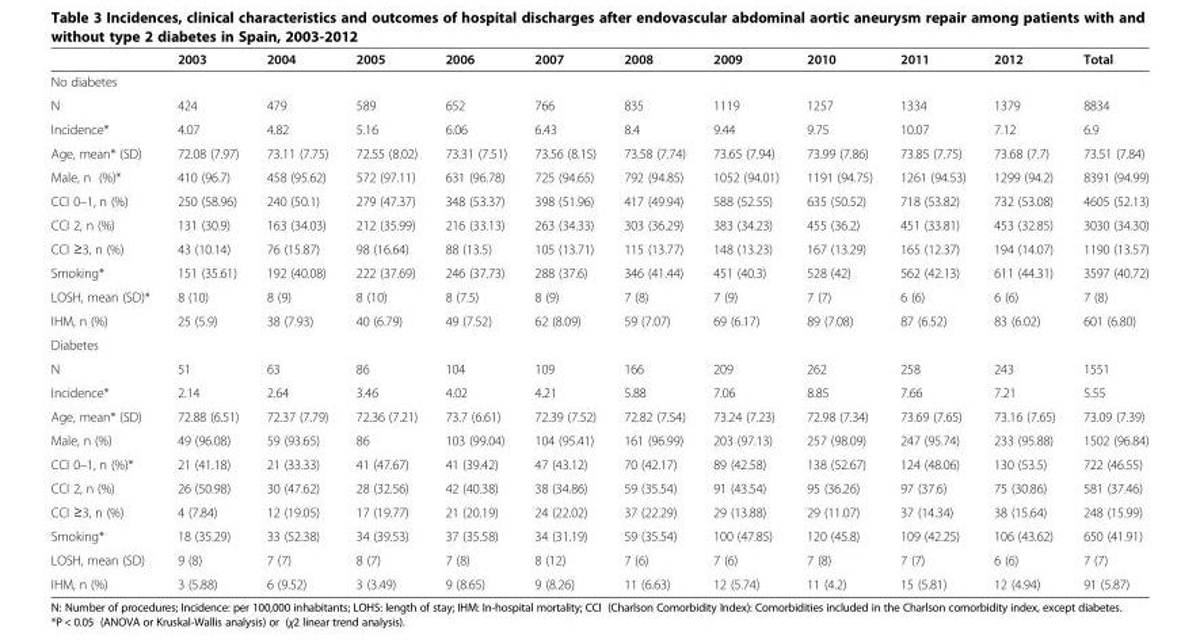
<table><thead><tr><td></td><td>2003</td><td>2004</td><td>2005</td><td>2006</td><td>2007</td><td>2008</td><td>2009</td><td>2010</td><td>2011</td><td>2012</td><td>Total</td></tr></thead><tbody><tr><td colspan="12">No diabetes</td></tr><tr><td>N</td><td>424</td><td>479</td><td>589</td><td>652</td><td>766</td><td>835</td><td>1119</td><td>1257</td><td>1334</td><td>1379</td><td>8834</td></tr><tr><td>Incidence*</td><td>4.07</td><td>4.82</td><td>5.16</td><td>6.06</td><td>6.43</td><td>8.4</td><td>9.44</td><td>9.75</td><td>10.07</td><td>7.12</td><td>6.9</td></tr><tr><td>Age, mean* (SD)</td><td>72.08 (7.97)</td><td>73.11 (7.75)</td><td>72.55 (8.02)</td><td>73.31 (7.51)</td><td>73.56 (8.15)</td><td>73.58 (7.74)</td><td>73.65 (7.94)</td><td>73.99 (7.86)</td><td>73.85 (7.75)</td><td>73.68 (7.7)</td><td>73.51 (7.84)</td></tr><tr><td>Male, n (%)*</td><td>410 (96.7)</td><td>458 (95.62)</td><td>572 (97.11)</td><td>631 (96.78)</td><td>725 (94.65)</td><td>792 (94.85)</td><td>1052 (94.01)</td><td>1191 (94.75)</td><td>1261 (94.53)</td><td>1299 (94.2)</td><td>8391 (94.99)</td></tr><tr><td>CCI 0–1, n (%)</td><td>250 (58.96)</td><td>240 (50.1)</td><td>279 (47.37)</td><td>348 (53.37)</td><td>398 (51.96)</td><td>417 (49.94)</td><td>588 (52.55)</td><td>635 (50.52)</td><td>718 (53.82)</td><td>732 (53.08)</td><td>4605 (52.13)</td></tr><tr><td>CCI 2, n (%)</td><td>131 (30.9)</td><td>163 (34.03)</td><td>212 (35.99)</td><td>216 (33.13)</td><td>263 (34.33)</td><td>303 (36.29)</td><td>383 (34.23)</td><td>455 (36.2)</td><td>451 (33.81)</td><td>453 (32.85)</td><td>3030 (34.30)</td></tr><tr><td>CCI ≥3, n (%)</td><td>43 (10.14)</td><td>76 (15.87)</td><td>98 (16.64)</td><td>88 (13.5)</td><td>105 (13.71)</td><td>115 (13.77)</td><td>148 (13.23)</td><td>167 (13.29)</td><td>165 (12.37)</td><td>194 (14.07)</td><td>1190 (13.57)</td></tr><tr><td>Smoking*</td><td>151 (35.61)</td><td>192 (40.08)</td><td>222 (37.69)</td><td>246 (37.73)</td><td>288 (37.6)</td><td>346 (41.44)</td><td>451 (40.3)</td><td>528 (42)</td><td>562 (42.13)</td><td>611 (44.31)</td><td>3597 (40.72)</td></tr><tr><td>LOSH, mean (SD)*</td><td>8 (10)</td><td>8 (9)</td><td>8 (10)</td><td>8 (7.5)</td><td>8 (9)</td><td>7 (8)</td><td>7 (9)</td><td>7 (7)</td><td>6 (6)</td><td>6 (6)</td><td>7 (8)</td></tr><tr><td>IHM, n (%)</td><td>25 (5.9)</td><td>38 (7.93)</td><td>40 (6.79)</td><td>49 (7.52)</td><td>62 (8.09)</td><td>59 (7.07)</td><td>69 (6.17)</td><td>89 (7.08)</td><td>87 (6.52)</td><td>83 (6.02)</td><td>601 (6.80)</td></tr><tr><td colspan="12">Diabetes</td></tr><tr><td>N</td><td>51</td><td>63</td><td>86</td><td>104</td><td>109</td><td>166</td><td>209</td><td>262</td><td>258</td><td>243</td><td>1551</td></tr><tr><td>Incidence*</td><td>2.14</td><td>2.64</td><td>3.46</td><td>4.02</td><td>4.21</td><td>5.88</td><td>7.06</td><td>8.85</td><td>7.66</td><td>7.21</td><td>5.55</td></tr><tr><td>Age, mean* (SD)</td><td>72.88 (6.51)</td><td>72.37 (7.79)</td><td>72.36 (7.21)</td><td>73.7 (6.61)</td><td>72.39 (7.52)</td><td>72.82 (7.54)</td><td>73.24 (7.23)</td><td>72.98 (7.34)</td><td>73.69 (7.65)</td><td>73.16 (7.65)</td><td>73.09 (7.39)</td></tr><tr><td>Male, n (%)</td><td>49 (96.08)</td><td>59 (93.65)</td><td>86</td><td>103 (99.04)</td><td>104 (95.41)</td><td>161 (96.99)</td><td>203 (97.13)</td><td>257 (98.09)</td><td>247 (95.74)</td><td>233 (95.88)</td><td>1502 (96.84)</td></tr><tr><td>CCI 0–1, n (%)*</td><td>21 (41.18)</td><td>21 (33.33)</td><td>41 (47.67)</td><td>41 (39.42)</td><td>47 (43.12)</td><td>70 (42.17)</td><td>89 (42.58)</td><td>138 (52.67)</td><td>124 (48.06)</td><td>130 (53.5)</td><td>722 (46.55)</td></tr><tr><td>CCI 2, n (%)</td><td>26 (50.98)</td><td>30 (47.62)</td><td>28 (32.56)</td><td>42 (40.38)</td><td>38 (34.86)</td><td>59 (35.54)</td><td>91 (43.54)</td><td>95 (36.26)</td><td>97 (37.6)</td><td>75 (30.86)</td><td>581 (37.46)</td></tr><tr><td>CCI ≥3, n (%)</td><td>4 (7.84)</td><td>12 (19.05)</td><td>17 (19.77)</td><td>21 (20.19)</td><td>24 (22.02)</td><td>37 (22.29)</td><td>29 (13.88)</td><td>29 (11.07)</td><td>37 (14.34)</td><td>38 (15.64)</td><td>248 (15.99)</td></tr><tr><td>Smoking*</td><td>18 (35.29)</td><td>33 (52.38)</td><td>34 (39.53)</td><td>37 (35.58)</td><td>34 (31.19)</td><td>59 (35.54)</td><td>100 (47.85)</td><td>120 (45.8)</td><td>109 (42.25)</td><td>106 (43.62)</td><td>650 (41.91)</td></tr><tr><td>LOSH, mean (SD)</td><td>9 (8)</td><td>7 (7)</td><td>8 (7)</td><td>7 (8)</td><td>8 (12)</td><td>7 (6)</td><td>7 (6)</td><td>7 (8)</td><td>7 (7)</td><td>6 (6)</td><td>7 (7)</td></tr><tr><td>IHM, n (%)</td><td>3 (5.88)</td><td>6 (9.52)</td><td>3 (3.49)</td><td>9 (8.65)</td><td>9 (8.26)</td><td>11 (6.63)</td><td>12 (5.74)</td><td>11 (4.2)</td><td>15 (5.81)</td><td>12 (4.94)</td><td>91 (5.87)</td></tr></tbody></table>